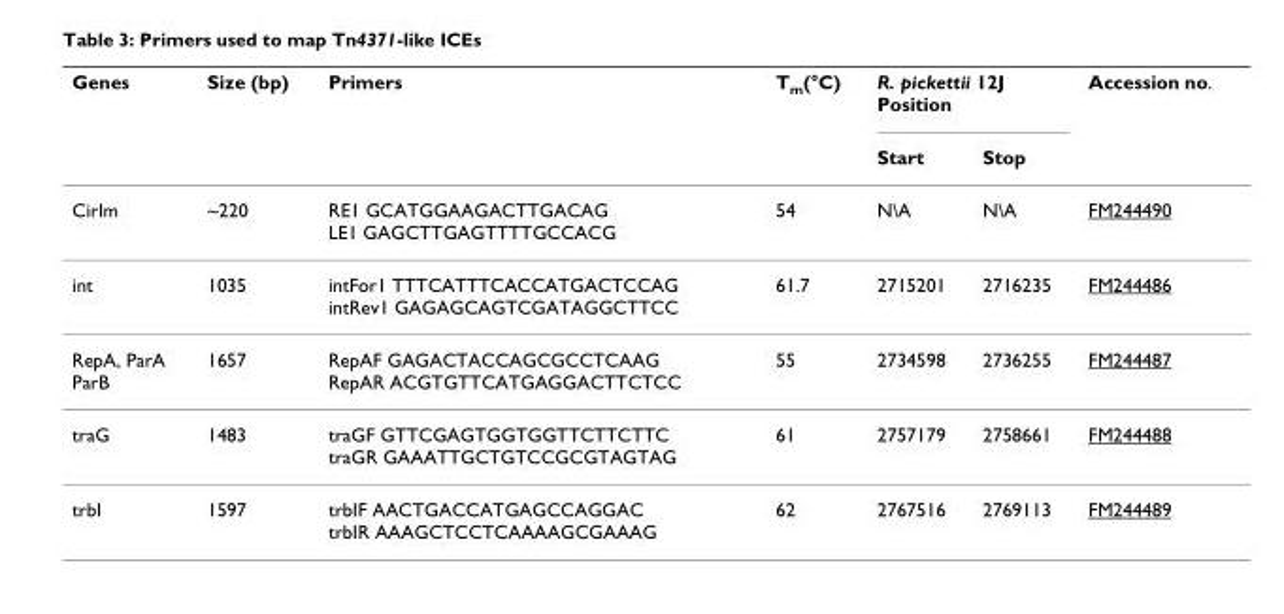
<table><thead><tr><td rowspan="2">Genes</td><td rowspan="2">Size (bp)</td><td rowspan="2">Primers</td><td rowspan="2">T<sub>m</sub>(°C)</td><td colspan="2">R. pickettii 12J Position</td><td rowspan="2">Accession no.</td></tr><tr><td>Start</td><td>Stop</td></tr></thead><tbody><tr><td>CirIm</td><td>~220</td><td>RE1 GCATGGAAGACTTGACAG LE1 GAGCTTGAGTTTTGCCACG</td><td>54</td><td>N\A</td><td>N\A</td><td>FM244490</td></tr><tr><td>int</td><td>1035</td><td>intFor1 TTTCATTTCACCATGACTCCAG intRev1 GAGAGCAGTCGATAGGCTTCC</td><td>61.7</td><td>2715201</td><td>2716235</td><td>FM244486</td></tr><tr><td>RepA, ParA ParB</td><td>1657</td><td>RepAF GAGACTACCAGCGCCTCAAG RepAR ACGTGTTCATGAGGACTTCTCC</td><td>55</td><td>2734598</td><td>2736255</td><td>FM244487</td></tr><tr><td>traG</td><td>1483</td><td>traGF GTTCGAGTGGTGGTTCTTCTTC traGR GAAATTGCTGTCCGCGTAGTAG</td><td>61</td><td>2757179</td><td>2758661</td><td>FM244488</td></tr><tr><td>trbI</td><td>1597</td><td>trbIF AACTGACCATGAGCCAGGAC trbIR AAAGCTCCTCAAAAGCGAAAG</td><td>62</td><td>2767516</td><td>2769113</td><td>FM244489</td></tr></tbody></table>